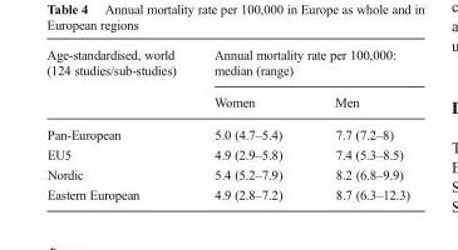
<table><thead><tr><td rowspan="2">Age-standardised, world (124 studies/sub-studies)</td><td colspan="2">Annual mortality rate per 100,000: median (range)</td></tr><tr><td>Women</td><td>Men</td></tr></thead><tbody><tr><td>Pan-European</td><td>5.0 (4.7–5.4)</td><td>7.7 (7.2–8)</td></tr><tr><td>EU5</td><td>4.9 (2.9–5.8)</td><td>7.4 (5.3–8.5)</td></tr><tr><td>Nordic</td><td>5.4 (5.2–7.9)</td><td>8.2 (6.8–9.9)</td></tr><tr><td>Eastern European</td><td>4.9 (2.8–7.2)</td><td>8.7 (6.3–12.3)</td></tr></tbody></table>